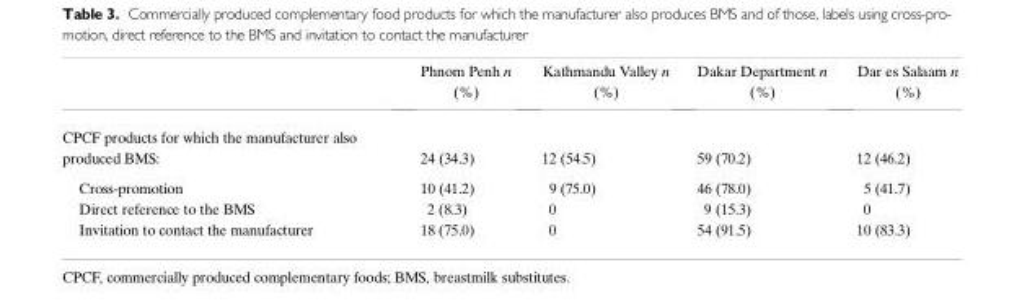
<table><thead><tr><td rowspan="2">CPCF products for which the manufacturer also produced BMS:</td><td rowspan="2">Phnom Penh n (%) 24 (34.3)</td><td rowspan="2">Kathmandu Valley n (%) 12 (54.5)</td><td rowspan="2">Dakar Department n (%) 59 (70.2)</td><td rowspan="2">Dar es Salaam n (%) 12 (46.2)</td></tr><tr></tr></thead><tbody><tr><td>Cross-promotion</td><td>10 (41.2)</td><td>9 (75.0)</td><td>46 (78.0)</td><td>5 (41.7)</td></tr><tr><td>Direct reference to the BMS</td><td>2 (8.3)</td><td>0</td><td>9 (15.3)</td><td>0</td></tr><tr><td>Invitation to contact the manufacturer</td><td>18 (75.0)</td><td>0</td><td>54 (91.5)</td><td>10 (83.3)</td></tr></tbody></table>